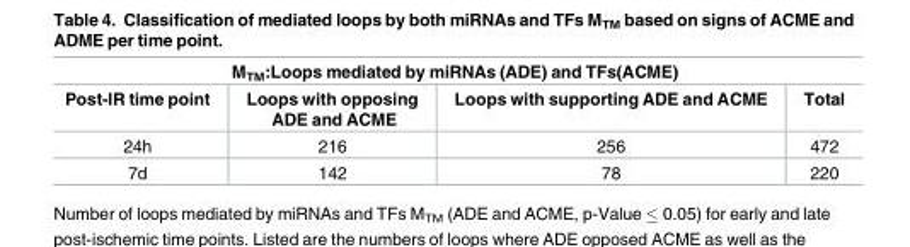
<table><thead><tr><td colspan="4">M<sub>TM</sub>:Loops mediated by miRNAs (ADE) and TFs(ACME)</td></tr><tr><td>Post-IR time point</td><td>Loops with opposing ADE and ACME</td><td>Loops with supporting ADE and ACME</td><td>Total</td></tr></thead><tbody><tr><td>24h</td><td>216</td><td>256</td><td>472</td></tr><tr><td>7d</td><td>142</td><td>78</td><td>220</td></tr></tbody></table>